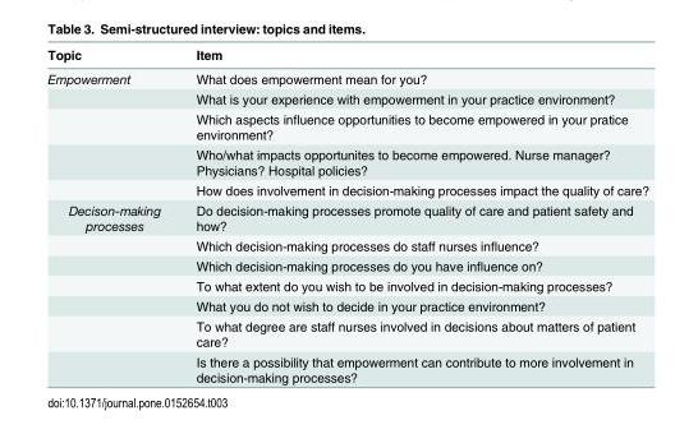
<table><thead><tr><td>Topic</td><td>Item</td></tr></thead><tbody><tr><td rowspan="5">Empowerment</td><td>What does empowerment mean for you?</td></tr><tr><td>What is your experience with empowerment in your practice environment?</td></tr><tr><td>Which aspects influence opportunities to become empowered in your pratice environment?</td></tr><tr><td>Who/what impacts opportunites to become empowered. Nurse manager? Physicians? Hospital policies?</td></tr><tr><td>How does involvement in decision-making processes impact the quality of care?</td></tr><tr><td rowspan="7">Decison-making processes</td><td>Do decision-making processes promote quality of care and patient safety and how?</td></tr><tr><td>Which decision-making processes do staff nurses influence?</td></tr><tr><td>Which decision-making processes do you have influence on?</td></tr><tr><td>To what extent do you wish to be involved in decision-making processes?</td></tr><tr><td>What you do not wish to decide in your practice environment?</td></tr><tr><td>To what degree are staff nurses involved in decisions about matters of patient care?</td></tr><tr><td>Is there a possibility that empowerment can contribute to more involvement in decision-making processes?</td></tr></tbody></table>